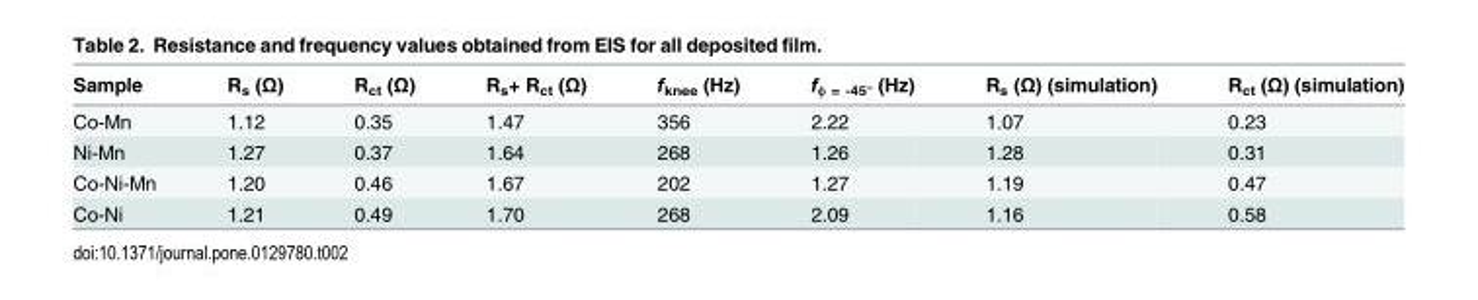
<table><thead><tr><td>Sample</td><td>R<sub>s</sub> (Ω)</td><td>R<sub>ct</sub> (Ω)</td><td>R<sub>s</sub>+ R<sub>ct</sub> (Ω)</td><td>f<sub>knee</sub> (Hz)</td><td>f<sub>ɸ = -45°</sub> (Hz)</td><td>R<sub>s</sub> (Ω) (simulation)</td><td>R<sub>ct</sub> (Ω) (simulation)</td></tr></thead><tbody><tr><td>Co-Mn</td><td>1.12</td><td>0.35</td><td>1.47</td><td>356</td><td>2.22</td><td>1.07</td><td>0.23</td></tr><tr><td>Ni-Mn</td><td>1.27</td><td>0.37</td><td>1.64</td><td>268</td><td>1.26</td><td>1.28</td><td>0.31</td></tr><tr><td>Co-Ni-Mn</td><td>1.20</td><td>0.46</td><td>1.67</td><td>202</td><td>1.27</td><td>1.19</td><td>0.47</td></tr><tr><td>Co-Ni</td><td>1.21</td><td>0.49</td><td>1.70</td><td>268</td><td>2.09</td><td>1.16</td><td>0.58</td></tr></tbody></table>